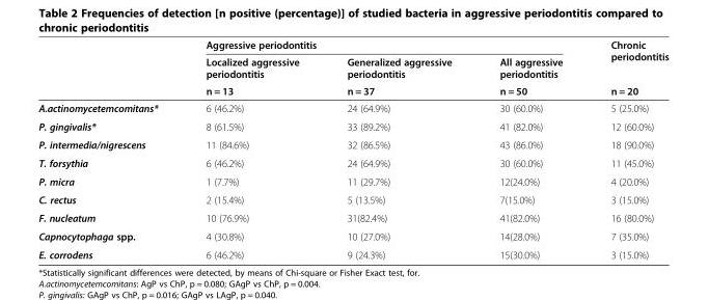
<table><thead><tr><td rowspan="3"></td><td colspan="3">Aggressive periodontitis</td><td rowspan="3">Chronic periodontitis n = 20</td></tr><tr><td rowspan="2">Localized aggressive periodontitis n = 13</td><td rowspan="2">Generalized aggressive periodontitis n = 37</td><td rowspan="2">All aggressive periodontitis n = 50</td></tr><tr></tr></thead><tbody><tr><td>A.actinomycetemcomitans*</td><td>6 (46.2%)</td><td>24 (64.9%)</td><td>30 (60.0%)</td><td>5 (25.0%)</td></tr><tr><td>P. gingivalis*</td><td>8 (61.5%)</td><td>33 (89.2%)</td><td>41 (82.0%)</td><td>12 (60.0%)</td></tr><tr><td>P. intermedia/nigrescens</td><td>11 (84.6%)</td><td>32 (86.5%)</td><td>43 (86.0%)</td><td>18 (90.0%)</td></tr><tr><td>T. forsythia</td><td>6 (46.2%)</td><td>24 (64.9%)</td><td>30 (60.0%)</td><td>11 (45.0%)</td></tr><tr><td>P. micra</td><td>1 (7.7%)</td><td>11 (29.7%)</td><td>12(24.0%)</td><td>4 (20.0%)</td></tr><tr><td>C. rectus</td><td>2 (15.4%)</td><td>5 (13.5%)</td><td>7(15.0%)</td><td>3 (15.0%)</td></tr><tr><td>F. nucleatum</td><td>10 (76.9%)</td><td>31(82.4%)</td><td>41(82.0%)</td><td>16 (80.0%)</td></tr><tr><td>Capnocytophaga spp.</td><td>4 (30.8%)</td><td>10 (27.0%)</td><td>14(28.0%)</td><td>7 (35.0%)</td></tr><tr><td>E. corrodens</td><td>6 (46.2%)</td><td>9 (24.3%)</td><td>15(30.0%)</td><td>3 (15.0%)</td></tr></tbody></table>